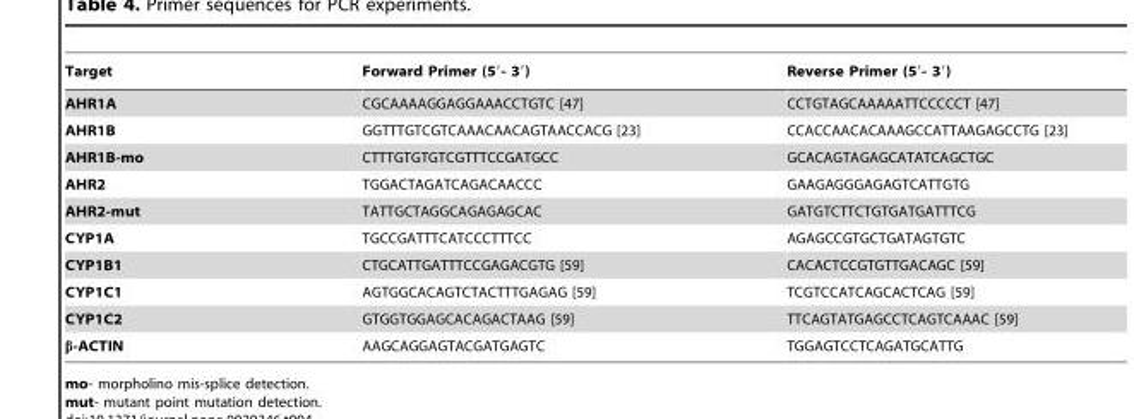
<table><thead><tr><td>Target</td><td>Forward Primer (5′- 3′)</td><td>Reverse Primer (5′- 3′)</td></tr></thead><tbody><tr><td>AHR1A</td><td>CGCAAAAGGAGGAAACCTGTC [47]</td><td>CCTGTAGCAAAAATTCCCCCT [47]</td></tr><tr><td>AHR1B</td><td>GGTTTGTCGTCAAACAACAGTAACCACG [23]</td><td>CCACCAACACAAAGCCATTAAGAGCCTG [23]</td></tr><tr><td>AHR1B-mo</td><td>CTTTGTGTGTCGTTTCCGATGCC</td><td>GCACAGTAGAGCATATCAGCTGC</td></tr><tr><td>AHR2</td><td>TGGACTAGATCAGACAACCC</td><td>GAAGAGGGAGAGTCATTGTG</td></tr><tr><td>AHR2-mut</td><td>TATTGCTAGGCAGAGAGCAC</td><td>GATGTCTTCTGTGATGATTTCG</td></tr><tr><td>CYP1A</td><td>TGCCGATTTCATCCCTTTCC</td><td>AGAGCCGTGCTGATAGTGTC</td></tr><tr><td>CYP1B1</td><td>CTGCATTGATTTCCGAGACGTG [59]</td><td>CACACTCCGTGTTGACAGC [59]</td></tr><tr><td>CYP1C1</td><td>AGTGGCACAGTCTACTTTGAGAG [59]</td><td>TCGTCCATCAGCACTCAG [59]</td></tr><tr><td>CYP1C2</td><td>GTGGTGGAGCACAGACTAAG [59]</td><td>TTCAGTATGAGCCTCAGTCAAAC [59]</td></tr><tr><td>β-ACTIN</td><td>AAGCAGGAGTACGATGAGTC</td><td>TGGAGTCCTCAGATGCATTG</td></tr></tbody></table>